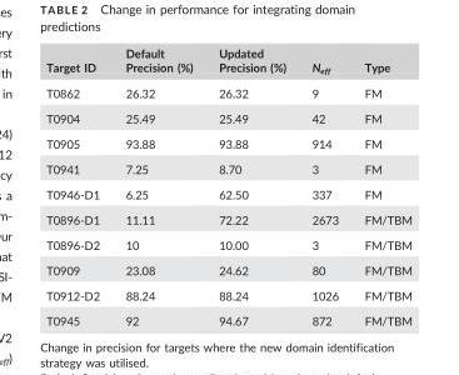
<table><thead><tr><td>Target ID</td><td>Default Precision (%)</td><td>Updated Precision (%)</td><td>N<sub>eff</sub></td><td>Type</td></tr></thead><tbody><tr><td>T0862</td><td>26.32</td><td>26.32</td><td>9</td><td>FM</td></tr><tr><td>T0904</td><td>25.49</td><td>25.49</td><td>42</td><td>FM</td></tr><tr><td>T0905</td><td>93.88</td><td>93.88</td><td>914</td><td>FM</td></tr><tr><td>T0941</td><td>7.25</td><td>8.70</td><td>3</td><td>FM</td></tr><tr><td>T0946-D1</td><td>6.25</td><td>62.50</td><td>337</td><td>FM</td></tr><tr><td>T0896-D1</td><td>11.11</td><td>72.22</td><td>2673</td><td>FM/TBM</td></tr><tr><td>T0896-D2</td><td>10</td><td>10.00</td><td>3</td><td>FM/TBM</td></tr><tr><td>T0909</td><td>23.08</td><td>24.62</td><td>80</td><td>FM/TBM</td></tr><tr><td>T0912-D2</td><td>88.24</td><td>88.24</td><td>1026</td><td>FM/TBM</td></tr><tr><td>T0945</td><td>92</td><td>94.67</td><td>872</td><td>FM/TBM</td></tr></tbody></table>